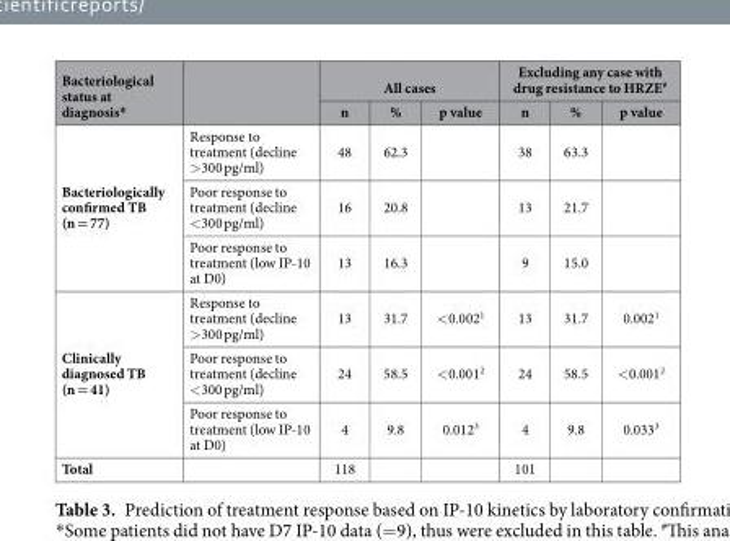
<table><thead><tr><td rowspan="2">Bacteriological status at diagnosis*</td><td rowspan="2"></td><td colspan="3">All cases</td><td colspan="3">Excluding any case with drug resistance to HRZE<sup>#</sup></td></tr><tr><td>n</td><td>%</td><td>p value</td><td>n</td><td>%</td><td>p value</td></tr></thead><tbody><tr><td rowspan="3">Bacteriologically confirmed TB (n = 77)</td><td>Response to treatment (decline &gt;300 pg/ml)</td><td>48</td><td>62.3</td><td></td><td>38</td><td>63.3</td><td></td></tr><tr><td>Poor response to treatment (decline &lt;300 pg/ml)</td><td>16</td><td>20.8</td><td></td><td>13</td><td>21.7</td><td></td></tr><tr><td>Poor response to treatment (low IP-10 at D0)</td><td>13</td><td>16.3</td><td></td><td>9</td><td>15.0</td><td></td></tr><tr><td rowspan="3">Clinically diagnosed TB (n = 41)</td><td>Response to treatment (decline &gt;300 pg/ml)</td><td>13</td><td>31.7</td><td>&lt;0.002<sup>1</sup></td><td>13</td><td>31.7</td><td>0.002<sup>1</sup></td></tr><tr><td>Poor response to treatment (decline &lt;300 pg/ml)</td><td>24</td><td>58.5</td><td>&lt;0.001<sup>2</sup></td><td>24</td><td>58.5</td><td>&lt;0.001<sup>2</sup></td></tr><tr><td>Poor response to treatment (low IP-10 at D0)</td><td>4</td><td>9.8</td><td>0.012<sup>3</sup></td><td>4</td><td>9.8</td><td>0.033<sup>3</sup></td></tr><tr><td>Total</td><td></td><td>118</td><td></td><td></td><td>101</td><td></td><td></td></tr></tbody></table>